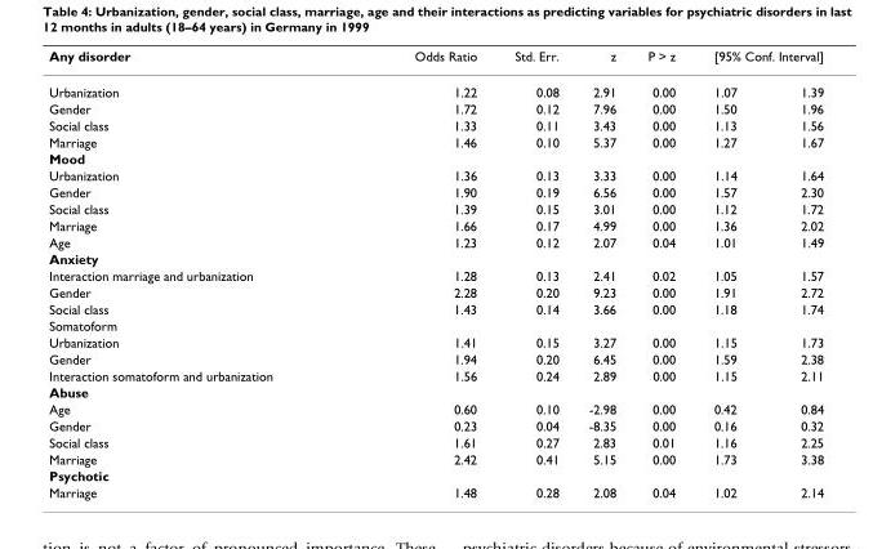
<table><thead><tr><td rowspan="2">Any disorder Urbanization</td><td rowspan="2">Odds Ratio 1.22</td><td rowspan="2">Std. Err. 0.08</td><td rowspan="2">z 2.91</td><td rowspan="2">P &gt; z 0.00</td><td colspan="2">[95% Conf. Interval]</td></tr><tr><td>1.07</td><td>1.39</td></tr></thead><tbody><tr><td>Gender</td><td>1.72</td><td>0.12</td><td>7.96</td><td>0.00</td><td>1.50</td><td>1.96</td></tr><tr><td>Social class</td><td>1.33</td><td>0.11</td><td>3.43</td><td>0.00</td><td>1.13</td><td>1.56</td></tr><tr><td>Marriage</td><td>1.46</td><td>0.10</td><td>5.37</td><td>0.00</td><td>1.27</td><td>1.67</td></tr><tr><td colspan="7">Mood</td></tr><tr><td>Urbanization</td><td>1.36</td><td>0.13</td><td>3.33</td><td>0.00</td><td>1.14</td><td>1.64</td></tr><tr><td>Gender</td><td>1.90</td><td>0.19</td><td>6.56</td><td>0.00</td><td>1.57</td><td>2.30</td></tr><tr><td>Social class</td><td>1.39</td><td>0.15</td><td>3.01</td><td>0.00</td><td>1.12</td><td>1.72</td></tr><tr><td>Marriage</td><td>1.66</td><td>0.17</td><td>4.99</td><td>0.00</td><td>1.36</td><td>2.02</td></tr><tr><td>Age</td><td>1.23</td><td>0.12</td><td>2.07</td><td>0.04</td><td>1.01</td><td>1.49</td></tr><tr><td colspan="7">Anxiety</td></tr><tr><td>Interaction marriage and urbanization</td><td>1.28</td><td>0.13</td><td>2.41</td><td>0.02</td><td>1.05</td><td>1.57</td></tr><tr><td>Gender</td><td>2.28</td><td>0.20</td><td>9.23</td><td>0.00</td><td>1.91</td><td>2.72</td></tr><tr><td>Social class</td><td>1.43</td><td>0.14</td><td>3.66</td><td>0.00</td><td>1.18</td><td>1.74</td></tr><tr><td colspan="7">Somatoform</td></tr><tr><td>Urbanization</td><td>1.41</td><td>0.15</td><td>3.27</td><td>0.00</td><td>1.15</td><td>1.73</td></tr><tr><td>Gender</td><td>1.94</td><td>0.20</td><td>6.45</td><td>0.00</td><td>1.59</td><td>2.38</td></tr><tr><td>Interaction somatoform and urbanization</td><td>1.56</td><td>0.24</td><td>2.89</td><td>0.00</td><td>1.15</td><td>2.11</td></tr><tr><td colspan="7">Abuse</td></tr><tr><td>Age</td><td>0.60</td><td>0.10</td><td>-2.98</td><td>0.00</td><td>0.42</td><td>0.84</td></tr><tr><td>Gender</td><td>0.23</td><td>0.04</td><td>-8.35</td><td>0.00</td><td>0.16</td><td>0.32</td></tr><tr><td>Social class</td><td>1.61</td><td>0.27</td><td>2.83</td><td>0.01</td><td>1.16</td><td>2.25</td></tr><tr><td>Marriage</td><td>2.42</td><td>0.41</td><td>5.15</td><td>0.00</td><td>1.73</td><td>3.38</td></tr><tr><td colspan="7">Psychotic</td></tr><tr><td>Marriage</td><td>1.48</td><td>0.28</td><td>2.08</td><td>0.04</td><td>1.02</td><td>2.14</td></tr></tbody></table>